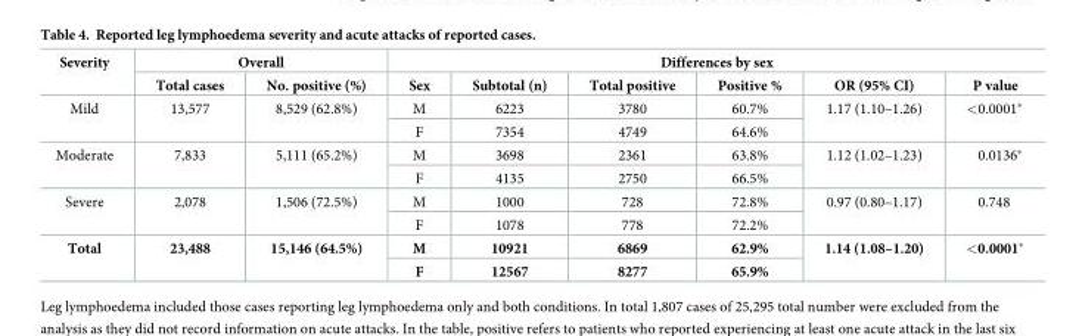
<table><thead><tr><td rowspan="2">Severity</td><td colspan="2">Overall</td><td colspan="6">Differences by sex</td></tr><tr><td>Total cases</td><td>No. positive (%)</td><td>Sex</td><td>Subtotal (n)</td><td>Total positive</td><td>Positive %</td><td>OR (95% CI)</td><td>P value</td></tr></thead><tbody><tr><td rowspan="2">Mild</td><td rowspan="2">13,577</td><td rowspan="2">8,529 (62.8%)</td><td>M</td><td>6223</td><td>3780</td><td>60.7%</td><td rowspan="2">1.17 (1.10–1.26)</td><td rowspan="2">&lt;0.0001*</td></tr><tr><td>F</td><td>7354</td><td>4749</td><td>64.6%</td></tr><tr><td rowspan="2">Moderate</td><td rowspan="2">7,833</td><td rowspan="2">5,111 (65.2%)</td><td>M</td><td>3698</td><td>2361</td><td>63.8%</td><td rowspan="2">1.12 (1.02–1.23)</td><td rowspan="2">0.0136*</td></tr><tr><td>F</td><td>4135</td><td>2750</td><td>66.5%</td></tr><tr><td rowspan="2">Severe</td><td rowspan="2">2,078</td><td rowspan="2">1,506 (72.5%)</td><td>M</td><td>1000</td><td>728</td><td>72.8%</td><td rowspan="2">0.97 (0.80–1.17)</td><td rowspan="2">0.748</td></tr><tr><td>F</td><td>1078</td><td>778</td><td>72.2%</td></tr><tr><td rowspan="2">Total</td><td rowspan="2">23,488</td><td rowspan="2">15,146 (64.5%)</td><td>M</td><td>10921</td><td>6869</td><td>62.9%</td><td rowspan="2">1.14 (1.08–1.20)</td><td rowspan="2">&lt;0.0001*</td></tr><tr><td>F</td><td>12567</td><td>8277</td><td>65.9%</td></tr></tbody></table>